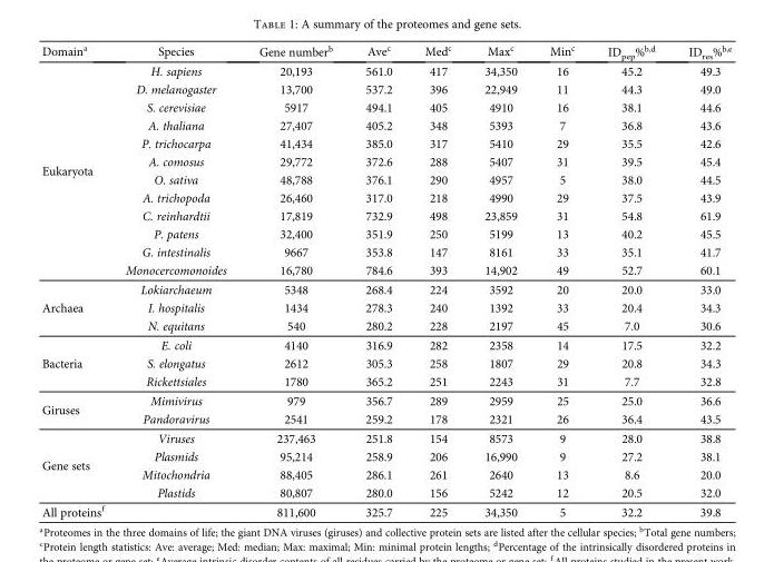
<table><thead><tr><td>Domain<sup>a</sup></td><td>Species</td><td>Gene number<sup>b</sup></td><td>Ave<sup>c</sup></td><td>Med<sup>c</sup></td><td>Max<sup>c</sup></td><td>Min<sup>c</sup></td><td>ID<sub>pep</sub>%<sup>b,d</sup></td><td>ID<sub>res</sub>%<sup>b,e</sup></td></tr></thead><tbody><tr><td rowspan="12">Eukaryota</td><td>H. sapiens</td><td>20,193</td><td>561.0</td><td>417</td><td>34,350</td><td>16</td><td>45.2</td><td>49.3</td></tr><tr><td>D. melanogaster</td><td>13,700</td><td>537.2</td><td>396</td><td>22,949</td><td>11</td><td>44.3</td><td>49.0</td></tr><tr><td>S. cerevisiae</td><td>5917</td><td>494.1</td><td>405</td><td>4910</td><td>16</td><td>38.1</td><td>44.6</td></tr><tr><td>A. thaliana</td><td>27,407</td><td>405.2</td><td>348</td><td>5393</td><td>7</td><td>36.8</td><td>43.6</td></tr><tr><td>P. trichocarpa</td><td>41,434</td><td>385.0</td><td>317</td><td>5410</td><td>29</td><td>35.5</td><td>42.6</td></tr><tr><td>A. comosus</td><td>29,772</td><td>372.6</td><td>288</td><td>5407</td><td>31</td><td>39.5</td><td>45.4</td></tr><tr><td>O. sativa</td><td>48,788</td><td>376.1</td><td>290</td><td>4957</td><td>5</td><td>38.0</td><td>44.5</td></tr><tr><td>A. trichopoda</td><td>26,460</td><td>317.0</td><td>218</td><td>4990</td><td>29</td><td>37.5</td><td>43.9</td></tr><tr><td>C. reinhardtii</td><td>17,819</td><td>732.9</td><td>498</td><td>23,859</td><td>31</td><td>54.8</td><td>61.9</td></tr><tr><td>P. patens</td><td>32,400</td><td>351.9</td><td>250</td><td>5199</td><td>13</td><td>40.2</td><td>45.5</td></tr><tr><td>G. intestinalis</td><td>9667</td><td>353.8</td><td>147</td><td>8161</td><td>33</td><td>35.1</td><td>41.7</td></tr><tr><td>Monocercomonoides</td><td>16,780</td><td>784.6</td><td>393</td><td>14,902</td><td>49</td><td>52.7</td><td>60.1</td></tr><tr><td rowspan="3">Archaea</td><td>Lokiarchaeum</td><td>5348</td><td>268.4</td><td>224</td><td>3592</td><td>20</td><td>20.0</td><td>33.0</td></tr><tr><td>I. hospitalis</td><td>1434</td><td>278.3</td><td>240</td><td>1392</td><td>33</td><td>20.4</td><td>34.3</td></tr><tr><td>N. equitans</td><td>540</td><td>280.2</td><td>228</td><td>2197</td><td>45</td><td>7.0</td><td>30.6</td></tr><tr><td rowspan="3">Bacteria</td><td>E. coli</td><td>4140</td><td>316.9</td><td>282</td><td>2358</td><td>14</td><td>17.5</td><td>32.2</td></tr><tr><td>S. elongatus</td><td>2612</td><td>305.3</td><td>258</td><td>1807</td><td>29</td><td>20.8</td><td>34.3</td></tr><tr><td>Rickettsiales</td><td>1780</td><td>365.2</td><td>251</td><td>2243</td><td>31</td><td>7.7</td><td>32.8</td></tr><tr><td rowspan="2">Giruses</td><td>Mimivirus</td><td>979</td><td>356.7</td><td>289</td><td>2959</td><td>25</td><td>25.0</td><td>36.6</td></tr><tr><td>Pandoravirus</td><td>2541</td><td>259.2</td><td>178</td><td>2321</td><td>26</td><td>36.4</td><td>43.5</td></tr><tr><td rowspan="4">Gene sets</td><td>Viruses</td><td>237,463</td><td>251.8</td><td>154</td><td>8573</td><td>9</td><td>28.0</td><td>38.8</td></tr><tr><td>Plasmids</td><td>95,214</td><td>258.9</td><td>206</td><td>16,990</td><td>9</td><td>27.2</td><td>38.1</td></tr><tr><td>Mitochondria</td><td>88,405</td><td>286.1</td><td>261</td><td>2640</td><td>13</td><td>8.6</td><td>20.0</td></tr><tr><td>Plastids</td><td>80,807</td><td>280.0</td><td>156</td><td>5242</td><td>12</td><td>20.5</td><td>32.0</td></tr><tr><td colspan="2">All proteins<sup>f</sup></td><td>811,600</td><td>325.7</td><td>225</td><td>34,350</td><td>5</td><td>32.2</td><td>39.8</td></tr></tbody></table>